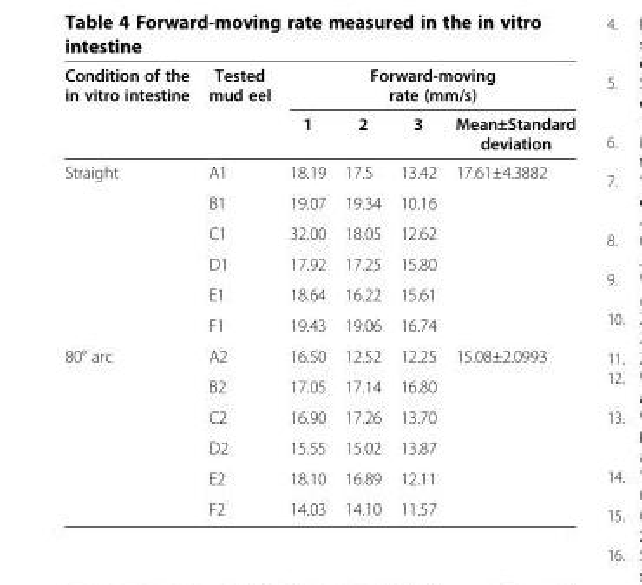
<table><thead><tr><td rowspan="2">Condition of the in vitro intestine</td><td rowspan="2">Tested mud eel</td><td colspan="4">Forward-moving rate (mm/s)</td></tr><tr><td>1</td><td>2</td><td>3</td><td>Mean±Standard deviation</td></tr></thead><tbody><tr><td rowspan="6">Straight</td><td>A1</td><td>18.19</td><td>17.5</td><td>13.42</td><td rowspan="6">17.61±4.3882</td></tr><tr><td>B1</td><td>19.07</td><td>19.34</td><td>10.16</td></tr><tr><td>C1</td><td>32.00</td><td>18.05</td><td>12.62</td></tr><tr><td>D1</td><td>17.92</td><td>17.25</td><td>15.80</td></tr><tr><td>E1</td><td>18.64</td><td>16.22</td><td>15.61</td></tr><tr><td>F1</td><td>19.43</td><td>19.06</td><td>16.74</td></tr><tr><td rowspan="6">80° arc</td><td>A2</td><td>16.50</td><td>12.52</td><td>12.25</td><td rowspan="5">15.08±2.0993</td></tr><tr><td>B2</td><td>17.05</td><td>17.14</td><td>16.80</td></tr><tr><td>C2</td><td>16.90</td><td>17.26</td><td>13.70</td></tr><tr><td>D2</td><td>15.55</td><td>15.02</td><td>13.87</td></tr><tr><td>E2</td><td>18.10</td><td>16.89</td><td>12.11</td></tr><tr><td>F2</td><td>14.03</td><td>14.10</td><td>11.57</td><td></td></tr></tbody></table>